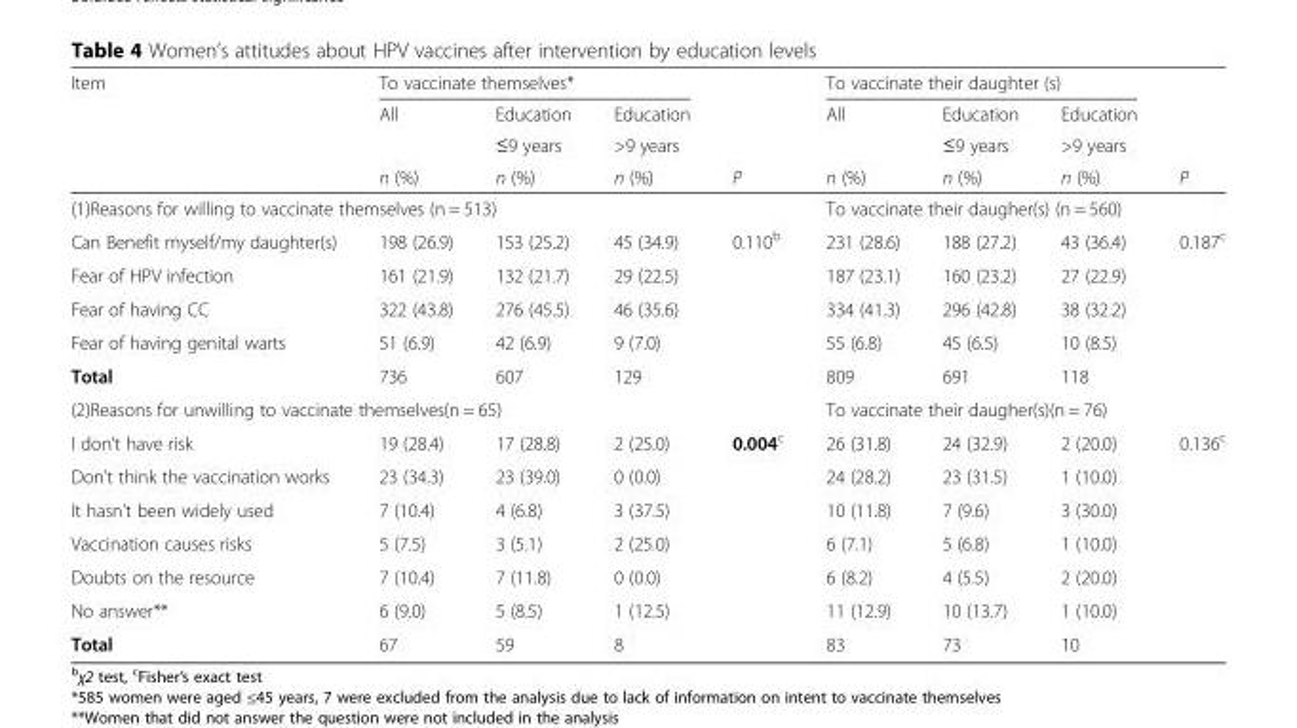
<table><thead><tr><td rowspan="4">Item</td><td colspan="3">To vaccinate themselves*</td><td rowspan="4">P</td><td colspan="3">To vaccinate their daughter (s)</td><td rowspan="4">P</td></tr><tr><td rowspan="3">All n (%)</td><td rowspan="3">Education ≤9 years n (%)</td><td rowspan="3">Education &gt;9 years n (%)</td><td rowspan="3">All n (%)</td><td rowspan="3">Education ≤9 years n (%)</td><td rowspan="3">Education &gt;9 years n (%)</td></tr><tr></tr><tr></tr></thead><tbody><tr><td colspan="5">(1)Reasons for willing to vaccinate themselves (n = 513)</td><td colspan="4">To vaccinate their daugher(s) (n = 560)</td></tr><tr><td>Can Benefit myself/my daughter(s)</td><td>198 (26.9)</td><td>153 (25.2)</td><td>45 (34.9)</td><td rowspan="4">0.110<sup>b</sup></td><td>231 (28.6)</td><td>188 (27.2)</td><td>43 (36.4)</td><td rowspan="4">0.187<sup>c</sup></td></tr><tr><td>Fear of HPV infection</td><td>161 (21.9)</td><td>132 (21.7)</td><td>29 (22.5)</td><td>187 (23.1)</td><td>160 (23.2)</td><td>27 (22.9)</td></tr><tr><td>Fear of having CC</td><td>322 (43.8)</td><td>276 (45.5)</td><td>46 (35.6)</td><td>334 (41.3)</td><td>296 (42.8)</td><td>38 (32.2)</td></tr><tr><td>Fear of having genital warts</td><td>51 (6.9)</td><td>42 (6.9)</td><td>9 (7.0)</td><td>55 (6.8)</td><td>45 (6.5)</td><td>10 (8.5)</td></tr><tr><td>Total</td><td>736</td><td>607</td><td>129</td><td></td><td>809</td><td>691</td><td>118</td><td></td></tr><tr><td colspan="5">(2)Reasons for unwilling to vaccinate themselves(n = 65)</td><td colspan="4">To vaccinate their daugher(s)(n = 76)</td></tr><tr><td>I don’t have risk</td><td>19 (28.4)</td><td>17 (28.8)</td><td>2 (25.0)</td><td rowspan="6">0.004<sup>c</sup></td><td>26 (31.8)</td><td>24 (32.9)</td><td>2 (20.0)</td><td rowspan="6">0.136<sup>c</sup></td></tr><tr><td>Don’t think the vaccination works</td><td>23 (34.3)</td><td>23 (39.0)</td><td>0 (0.0)</td><td>24 (28.2)</td><td>23 (31.5)</td><td>1 (10.0)</td></tr><tr><td>It hasn’t been widely used</td><td>7 (10.4)</td><td>4 (6.8)</td><td>3 (37.5)</td><td>10 (11.8)</td><td>7 (9.6)</td><td>3 (30.0)</td></tr><tr><td>Vaccination causes risks</td><td>5 (7.5)</td><td>3 (5.1)</td><td>2 (25.0)</td><td>6 (7.1)</td><td>5 (6.8)</td><td>1 (10.0)</td></tr><tr><td>Doubts on the resource</td><td>7 (10.4)</td><td>7 (11.8)</td><td>0 (0.0)</td><td>6 (8.2)</td><td>4 (5.5)</td><td>2 (20.0)</td></tr><tr><td>No answer**</td><td>6 (9.0)</td><td>5 (8.5)</td><td>1 (12.5)</td><td>11 (12.9)</td><td>10 (13.7)</td><td>1 (10.0)</td></tr><tr><td>Total</td><td>67</td><td>59</td><td>8</td><td></td><td>83</td><td>73</td><td>10</td><td></td></tr></tbody></table>